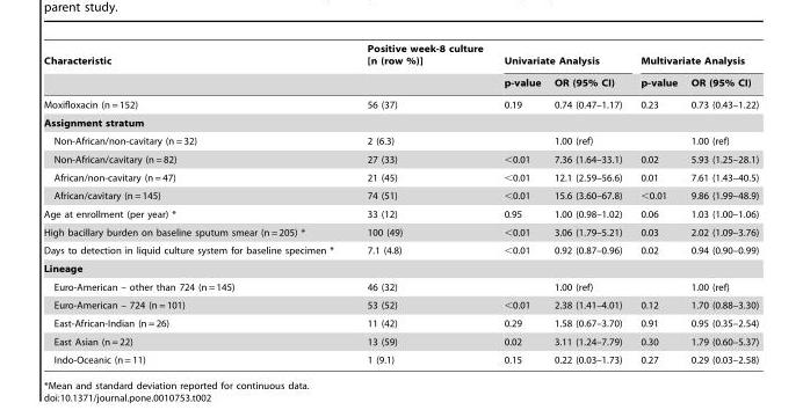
<table><thead><tr><td rowspan="2">Characteristic</td><td rowspan="2">Positive week-8 culture [n (row %)]</td><td colspan="2">Univariate Analysis</td><td colspan="2">Multivariate Analysis</td></tr><tr><td>p-value</td><td>OR (95% CI)</td><td>p-value</td><td>OR (95% CI)</td></tr></thead><tbody><tr><td>Moxifloxacin (n = 152)</td><td>56 (37)</td><td>0.19</td><td>0.74 (0.47–1.17)</td><td>0.23</td><td>0.73 (0.43–1.22)</td></tr><tr><td colspan="6">Assignment stratum</td></tr><tr><td>Non-African/non-cavitary (n = 32)</td><td>2 (6.3)</td><td></td><td>1.00 (ref)</td><td></td><td>1.00 (ref)</td></tr><tr><td>Non-African/cavitary (n = 82)</td><td>27 (33)</td><td>&lt;0.01</td><td>7.36 (1.64–33.1)</td><td>0.02</td><td>5.93 (1.25–28.1)</td></tr><tr><td>African/non-cavitary (n = 47)</td><td>21 (45)</td><td>&lt;0.01</td><td>12.1 (2.59–56.6)</td><td>0.01</td><td>7.61 (1.43–40.5)</td></tr><tr><td>African/cavitary (n = 145)</td><td>74 (51)</td><td>&lt;0.01</td><td>15.6 (3.60–67.8)</td><td>&lt;0.01</td><td>9.86 (1.99–48.9)</td></tr><tr><td>Age at enrollment (per year) *</td><td>33 (12)</td><td>0.95</td><td>1.00 (0.98–1.02)</td><td>0.06</td><td>1.03 (1.00–1.06)</td></tr><tr><td>High bacillary burden on baseline sputum smear (n = 205) *</td><td>100 (49)</td><td>&lt;0.01</td><td>3.06 (1.79–5.21)</td><td>0.03</td><td>2.02 (1.09–3.76)</td></tr><tr><td>Days to detection in liquid culture system for baseline specimen *</td><td>7.1 (4.8)</td><td>&lt;0.01</td><td>0.92 (0.87–0.96)</td><td>0.02</td><td>0.94 (0.90–0.99)</td></tr><tr><td colspan="6">Lineage</td></tr><tr><td>Euro-American – other than 724 (n = 145)</td><td>46 (32)</td><td></td><td>1.00 (ref)</td><td></td><td>1.00 (ref)</td></tr><tr><td>Euro-American – 724 (n = 101)</td><td>53 (52)</td><td>&lt;0.01</td><td>2.38 (1.41–4.01)</td><td>0.12</td><td>1.70 (0.88–3.30)</td></tr><tr><td>East-African-Indian (n = 26)</td><td>11 (42)</td><td>0.29</td><td>1.58 (0.67–3.70)</td><td>0.91</td><td>0.95 (0.35–2.54)</td></tr><tr><td>East Asian (n = 22)</td><td>13 (59)</td><td>0.02</td><td>3.11 (1.24–7.79)</td><td>0.30</td><td>1.79 (0.60–5.37)</td></tr><tr><td>Indo-Oceanic (n = 11)</td><td>1 (9.1)</td><td>0.15</td><td>0.22 (0.03–1.73)</td><td>0.27</td><td>0.29 (0.03–2.58)</td></tr></tbody></table>